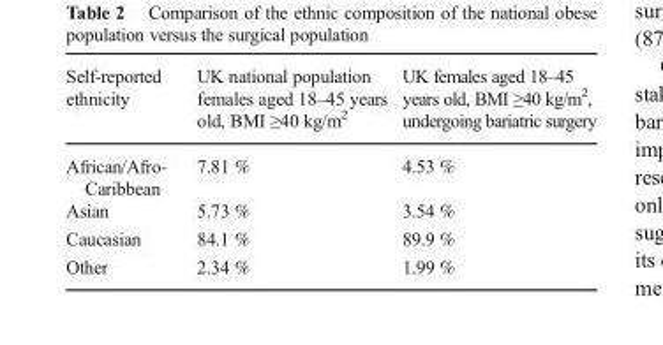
<table><thead><tr><td>Self-reported ethnicity</td><td>UK national population females aged 18–45 years old, BMI ≥40 kg/m<sup>2</sup></td><td>UK females aged 18–45 years old, BMI ≥40 kg/m<sup>2</sup>, undergoing bariatric surgery</td></tr></thead><tbody><tr><td>African/Afro- Caribbean</td><td>7.81 %</td><td>4.53 %</td></tr><tr><td>Asian</td><td>5.73 %</td><td>3.54 %</td></tr><tr><td>Caucasian</td><td>84.1 %</td><td>89.9 %</td></tr><tr><td>Other</td><td>2.34 %</td><td>1.99 %</td></tr></tbody></table>